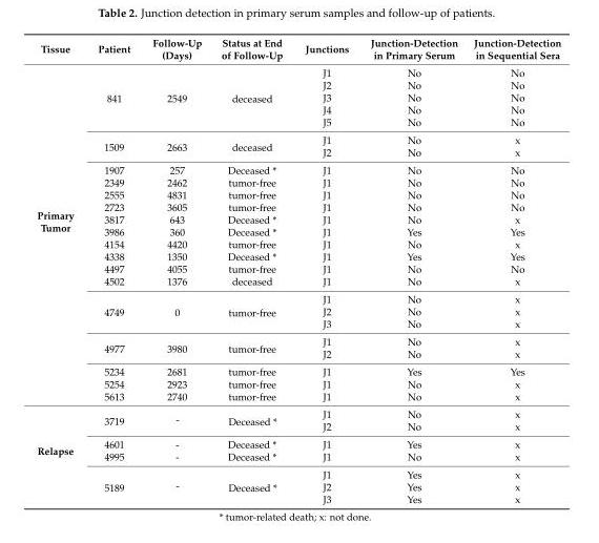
<table><thead><tr><td>Tissue</td><td>Patient</td><td>Follow-Up (Days)</td><td>Status at End of Follow-Up</td><td>Junctions</td><td>Junction-Detection in Primary Serum</td><td>Junction-Detection in Sequential Sera</td></tr></thead><tbody><tr><td rowspan="25">Primary Tumor</td><td rowspan="5">841</td><td rowspan="5">2549</td><td rowspan="5">deceased</td><td>J1</td><td>No</td><td>No</td></tr><tr><td>J2</td><td>No</td><td>No</td></tr><tr><td>J3</td><td>No</td><td>No</td></tr><tr><td>J4</td><td>No</td><td>No</td></tr><tr><td>J5</td><td>No</td><td>No</td></tr><tr><td rowspan="2">1509</td><td rowspan="2">2663</td><td rowspan="2">deceased</td><td>J1</td><td>No</td><td>x</td></tr><tr><td>J2</td><td>No</td><td>x</td></tr><tr><td>1907</td><td>257</td><td>Deceased *</td><td>J1</td><td>No</td><td>No</td></tr><tr><td>2349</td><td>2462</td><td>tumor-free</td><td>J1</td><td>No</td><td>No</td></tr><tr><td>2555</td><td>4831</td><td>tumor-free</td><td>J1</td><td>No</td><td>No</td></tr><tr><td>2723</td><td>3605</td><td>tumor-free</td><td>J1</td><td>No</td><td>No</td></tr><tr><td>3817</td><td>643</td><td>Deceased *</td><td>J1</td><td>No</td><td>x</td></tr><tr><td>3986</td><td>360</td><td>Deceased *</td><td>J1</td><td>Yes</td><td>Yes</td></tr><tr><td>4154</td><td>4420</td><td>tumor-free</td><td>J1</td><td>No</td><td>x</td></tr><tr><td>4338</td><td>1350</td><td>Deceased *</td><td>J1</td><td>Yes</td><td>Yes</td></tr><tr><td>4497</td><td>4055</td><td>tumor-free</td><td>J1</td><td>No</td><td>No</td></tr><tr><td>4502</td><td>1376</td><td>deceased</td><td>J1</td><td>No</td><td>x</td></tr><tr><td rowspan="3">4749</td><td rowspan="3">0</td><td rowspan="3">tumor-free</td><td>J1</td><td>No</td><td>x</td></tr><tr><td>J2</td><td>No</td><td>x</td></tr><tr><td>J3</td><td>No</td><td>x</td></tr><tr><td rowspan="2">4977</td><td rowspan="2">3980</td><td rowspan="2">tumor-free</td><td>J1</td><td>No</td><td>x</td></tr><tr><td>J2</td><td>No</td><td>x</td></tr><tr><td>5234</td><td>2681</td><td>tumor-free</td><td>J1</td><td>Yes</td><td>Yes</td></tr><tr><td>5254</td><td>2923</td><td>tumor-free</td><td>J1</td><td>No</td><td>x</td></tr><tr><td>5613</td><td>2740</td><td>tumor-free</td><td>J1</td><td>No</td><td>x</td></tr><tr><td rowspan="7">Relapse</td><td rowspan="2">3719</td><td rowspan="2">-</td><td rowspan="2">Deceased *</td><td>J1</td><td>No</td><td>x</td></tr><tr><td>J2</td><td>No</td><td>x</td></tr><tr><td>4601</td><td>-</td><td>Deceased *</td><td>J1</td><td>Yes</td><td>x</td></tr><tr><td>4995</td><td>-</td><td>Deceased *</td><td>J1</td><td>No</td><td>x</td></tr><tr><td rowspan="3">5189</td><td rowspan="3">-</td><td rowspan="3">Deceased *</td><td>J1</td><td>Yes</td><td>x</td></tr><tr><td>J2</td><td>Yes</td><td>x</td></tr><tr><td>J3</td><td>Yes</td><td>x</td></tr></tbody></table>